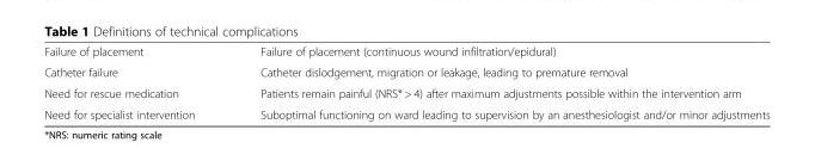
<table><tbody><tr><td>Failure of placement</td><td>Failure of placement (continuous wound infiltration/epidural)</td></tr><tr><td>Catheter failure</td><td>Catheter dislodgement, migration or leakage, leading to premature removal</td></tr><tr><td>Need for rescue medication</td><td>Patients remain painful (NRS* &gt; 4) after maximum adjustments possible within the intervention arm</td></tr><tr><td>Need for specialist intervention</td><td>Suboptimal functioning on ward leading to supervision by an anesthesiologist and/or minor adjustments</td></tr></tbody></table>